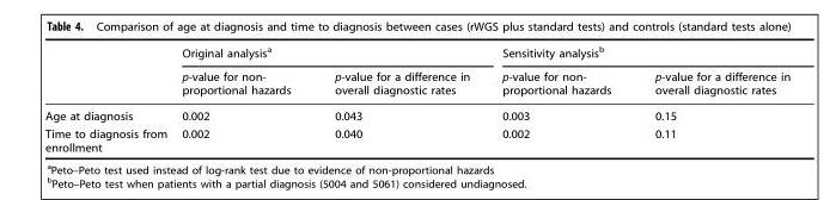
<table><thead><tr><td rowspan="2"></td><td colspan="2">Original analysis<sup>a</sup></td><td colspan="2">Sensitivity analysis<sup>b</sup></td></tr><tr><td>p-value for non- proportional hazards</td><td>p-value for a difference in overall diagnostic rates</td><td>p-value for non- proportional hazards</td><td>p-value for a difference in overall diagnostic rates</td></tr></thead><tbody><tr><td>Age at diagnosis</td><td>0.002</td><td>0.043</td><td>0.003</td><td>0.15</td></tr><tr><td>Time to diagnosis from enrollment</td><td>0.002</td><td>0.040</td><td>0.002</td><td>0.11</td></tr></tbody></table>